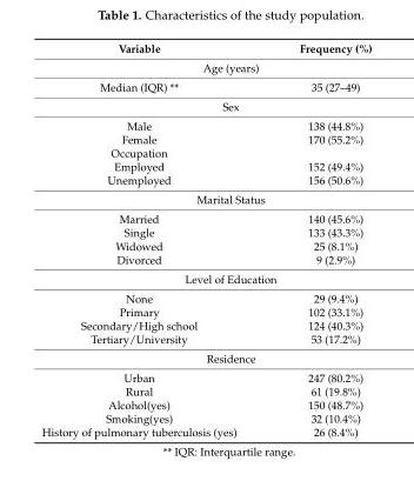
<table><thead><tr><td>Variable</td><td>Frequency (%)</td></tr></thead><tbody><tr><td colspan="2">Age (years)</td></tr><tr><td>Median (IQR) **</td><td>35 (27–49)</td></tr><tr><td colspan="2">Sex</td></tr><tr><td>Male</td><td>138 (44.8%)</td></tr><tr><td>Female</td><td>170 (55.2%)</td></tr><tr><td colspan="2">Occupation</td></tr><tr><td>Employed</td><td>152 (49.4%)</td></tr><tr><td>Unemployed</td><td>156 (50.6%)</td></tr><tr><td colspan="2">Marital Status</td></tr><tr><td>Married</td><td>140 (45.6%)</td></tr><tr><td>Single</td><td>133 (43.3%)</td></tr><tr><td>Widowed</td><td>25 (8.1%)</td></tr><tr><td>Divorced</td><td>9 (2.9%)</td></tr><tr><td colspan="2">Level of Education</td></tr><tr><td>None</td><td>29 (9.4%)</td></tr><tr><td>Primary</td><td>102 (33.1%)</td></tr><tr><td>Secondary/High school</td><td>124 (40.3%)</td></tr><tr><td>Tertiary/University</td><td>53 (17.2%)</td></tr><tr><td colspan="2">Residence</td></tr><tr><td>Urban</td><td>247 (80.2%)</td></tr><tr><td>Rural</td><td>61 (19.8%)</td></tr><tr><td>Alcohol(yes)</td><td>150 (48.7%)</td></tr><tr><td>Smoking(yes)</td><td>32 (10.4%)</td></tr><tr><td>History of pulmonary tuberculosis (yes)</td><td>26 (8.4%)</td></tr></tbody></table>